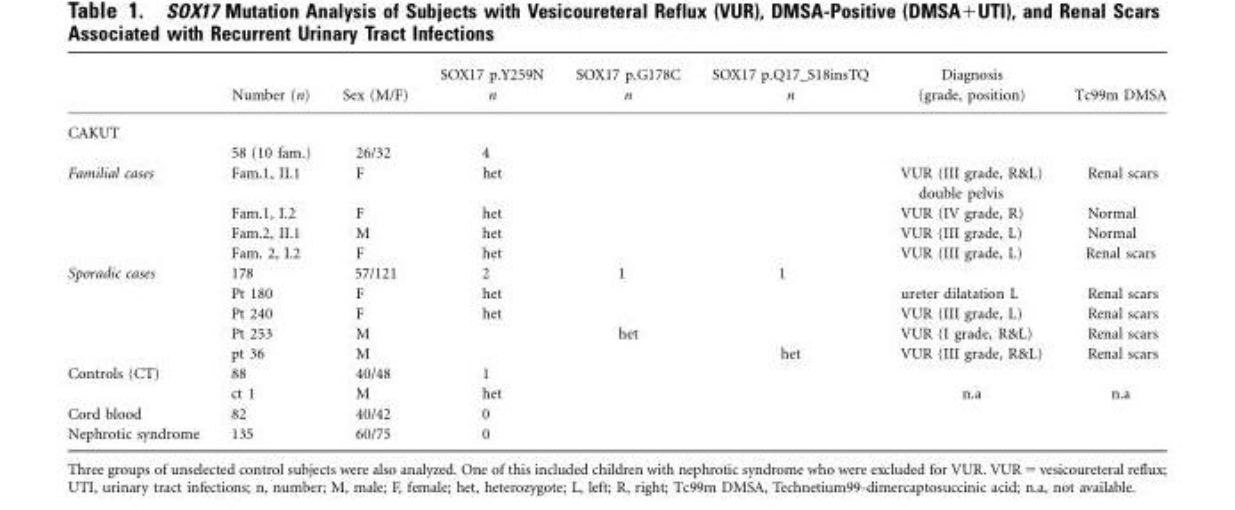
<table><thead><tr><td></td><td>Number (n)</td><td>Sex (M/F)</td><td>SOX17 p.Y259N n</td><td>SOX17 p.G178C n</td><td>SOX17 p.Q17_S18insTQ n</td><td>Diagnosis (grade, position)</td><td>Tc99m DMSA</td></tr></thead><tbody><tr><td colspan="8">CAKUT</td></tr><tr><td></td><td>58 (10 fam.)</td><td>26/32</td><td>4</td><td></td><td></td><td></td><td></td></tr><tr><td rowspan="4">Familial cases</td><td>Fam.1, II.1</td><td>F</td><td>het</td><td></td><td></td><td>VUR (III grade, R&amp;L) double pelvis</td><td>Renal scars</td></tr><tr><td>Fam.1, I.2</td><td>F</td><td>het</td><td></td><td></td><td>VUR (IV grade, R)</td><td>Normal</td></tr><tr><td>Fam.2, II.1</td><td>M</td><td>het</td><td></td><td></td><td>VUR (III grade, L)</td><td>Normal</td></tr><tr><td>Fam. 2, I.2</td><td>F</td><td>het</td><td></td><td></td><td>VUR (III grade, L)</td><td>Renal scars</td></tr><tr><td rowspan="5">Sporadic cases</td><td>178</td><td>57/121</td><td>2</td><td>1</td><td>1</td><td></td><td></td></tr><tr><td>Pt 180</td><td>F</td><td>het</td><td></td><td></td><td>ureter dilatation L</td><td>Renal scars</td></tr><tr><td>Pt 240</td><td>F</td><td>het</td><td></td><td></td><td>VUR (III grade, L)</td><td>Renal scars</td></tr><tr><td>Pt 253</td><td>M</td><td></td><td>het</td><td></td><td>VUR (I grade, R&amp;L)</td><td>Renal scars</td></tr><tr><td>pt 36</td><td>M</td><td></td><td></td><td>het</td><td>VUR (III grade, R&amp;L)</td><td>Renal scars</td></tr><tr><td rowspan="2">Controls (CT)</td><td>88</td><td>40/48</td><td>1</td><td></td><td></td><td></td><td></td></tr><tr><td>ct 1</td><td>M</td><td>het</td><td></td><td></td><td>n.a</td><td>n.a</td></tr><tr><td>Cord blood</td><td>82</td><td>40/42</td><td>0</td><td></td><td></td><td></td><td></td></tr><tr><td>Nephrotic syndrome</td><td>135</td><td>60/75</td><td>0</td><td></td><td></td><td></td><td></td></tr></tbody></table>